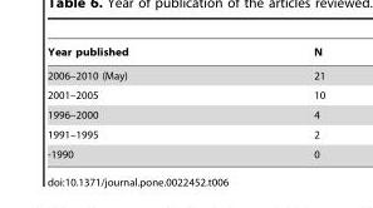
<table><thead><tr><td>Year published</td><td>N</td></tr></thead><tbody><tr><td>2006–2010 (May)</td><td>21</td></tr><tr><td>2001–2005</td><td>10</td></tr><tr><td>1996–2000</td><td>4</td></tr><tr><td>1991–1995</td><td>2</td></tr><tr><td>-1990</td><td>0</td></tr></tbody></table>